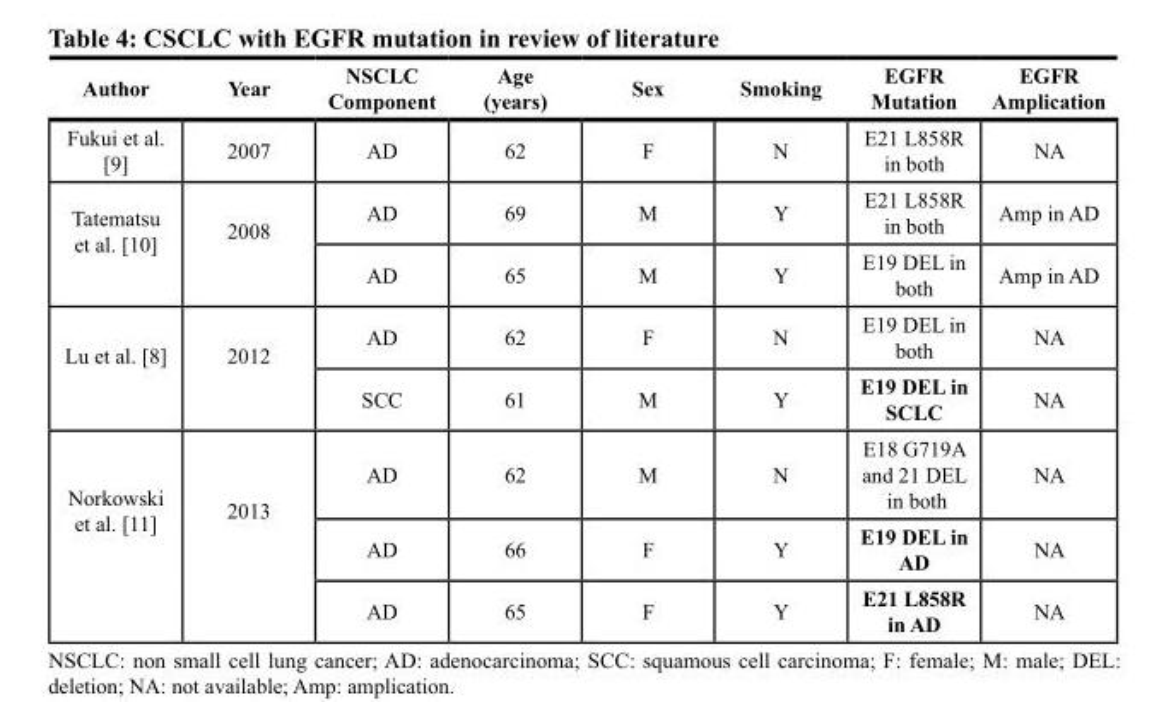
<table><thead><tr><td>Author</td><td>Year</td><td>NSCLC Component</td><td>Age (years)</td><td>Sex</td><td>Smoking</td><td>EGFR Mutation</td><td>EGFR Amplication</td></tr></thead><tbody><tr><td>Fukui et al. [9]</td><td>2007</td><td>AD</td><td>62</td><td>F</td><td>N</td><td>E21 L858R in both</td><td>NA</td></tr><tr><td rowspan="2">Tatematsu et al. [10]</td><td rowspan="2">2008</td><td>AD</td><td>69</td><td>M</td><td>Y</td><td>E21 L858R in both</td><td>Amp in AD</td></tr><tr><td>AD</td><td>65</td><td>M</td><td>Y</td><td>E19 DEL in both</td><td>Amp in AD</td></tr><tr><td rowspan="2">Lu et al. [8]</td><td rowspan="2">2012</td><td>AD</td><td>62</td><td>F</td><td>N</td><td>E19 DEL in both</td><td>NA</td></tr><tr><td>SCC</td><td>61</td><td>M</td><td>Y</td><td>E19 DEL in SCLC</td><td>NA</td></tr><tr><td rowspan="3">Norkowski et al. [11]</td><td rowspan="3">2013</td><td>AD</td><td>62</td><td>M</td><td>N</td><td>E18 G719A and 21 DEL in both</td><td>NA</td></tr><tr><td>AD</td><td>66</td><td>F</td><td>Y</td><td>E19 DEL in AD</td><td>NA</td></tr><tr><td>AD</td><td>65</td><td>F</td><td>Y</td><td>E21 L858R in AD</td><td>NA</td></tr></tbody></table>